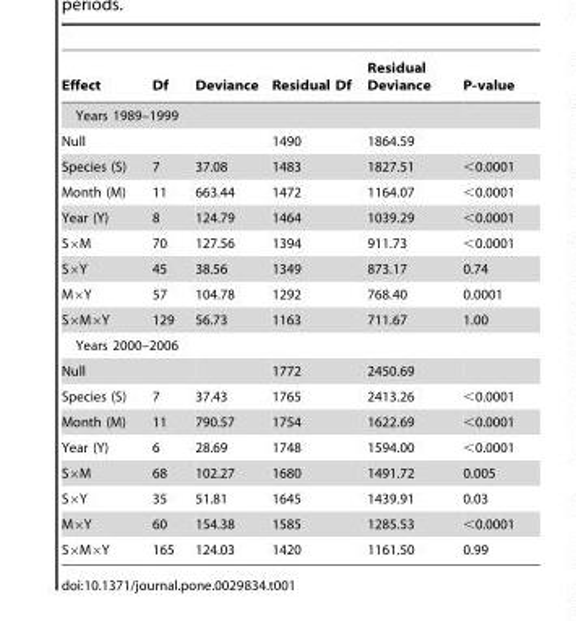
<table><thead><tr><td>Effect</td><td>Df</td><td>Deviance</td><td>Residual Df</td><td>Residual Deviance</td><td>P-value</td></tr></thead><tbody><tr><td colspan="6">Years 1989–1999</td></tr><tr><td>Null</td><td></td><td></td><td>1490</td><td>1864.59</td><td></td></tr><tr><td>Species (S)</td><td>7</td><td>37.08</td><td>1483</td><td>1827.51</td><td>&lt;0.0001</td></tr><tr><td>Month (M)</td><td>11</td><td>663.44</td><td>1472</td><td>1164.07</td><td>&lt;0.0001</td></tr><tr><td>Year (Y)</td><td>8</td><td>124.79</td><td>1464</td><td>1039.29</td><td>&lt;0.0001</td></tr><tr><td>S×M</td><td>70</td><td>127.56</td><td>1394</td><td>911.73</td><td>&lt;0.0001</td></tr><tr><td>S×Y</td><td>45</td><td>38.56</td><td>1349</td><td>873.17</td><td>0.74</td></tr><tr><td>M×Y</td><td>57</td><td>104.78</td><td>1292</td><td>768.40</td><td>0.0001</td></tr><tr><td>S×M×Y</td><td>129</td><td>56.73</td><td>1163</td><td>711.67</td><td>1.00</td></tr><tr><td colspan="6">Years 2000–2006</td></tr><tr><td>Null</td><td></td><td></td><td>1772</td><td>2450.69</td><td></td></tr><tr><td>Species (S)</td><td>7</td><td>37.43</td><td>1765</td><td>2413.26</td><td>&lt;0.0001</td></tr><tr><td>Month (M)</td><td>11</td><td>790.57</td><td>1754</td><td>1622.69</td><td>&lt;0.0001</td></tr><tr><td>Year (Y)</td><td>6</td><td>28.69</td><td>1748</td><td>1594.00</td><td>&lt;0.0001</td></tr><tr><td>S×M</td><td>68</td><td>102.27</td><td>1680</td><td>1491.72</td><td>0.005</td></tr><tr><td>S×Y</td><td>35</td><td>51.81</td><td>1645</td><td>1439.91</td><td>0.03</td></tr><tr><td>M×Y</td><td>60</td><td>154.38</td><td>1585</td><td>1285.53</td><td>&lt;0.0001</td></tr><tr><td>S×M×Y</td><td>165</td><td>124.03</td><td>1420</td><td>1161.50</td><td>0.99</td></tr></tbody></table>